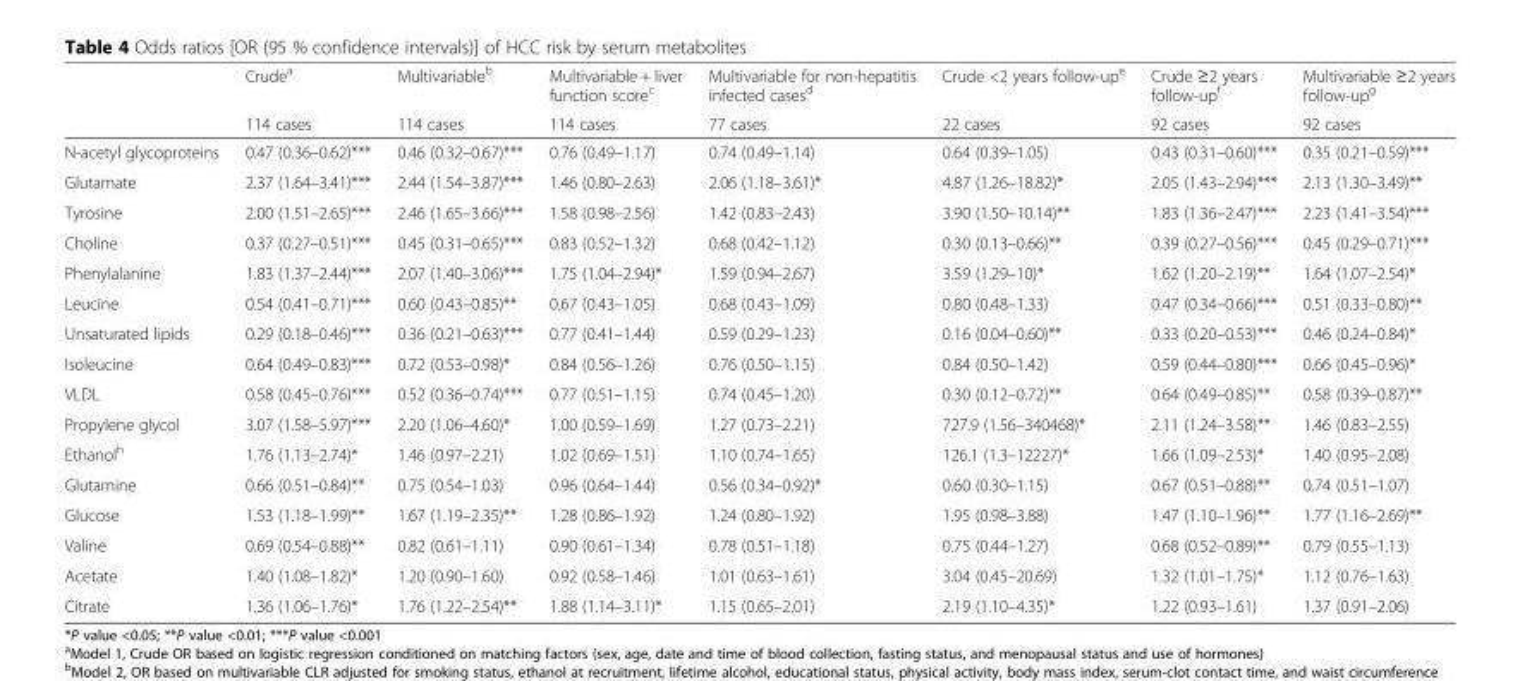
<table><thead><tr><td rowspan="2"></td><td rowspan="2">Crude<sup>a</sup> 114 cases</td><td rowspan="2">Multivariable<sup>b</sup> 114 cases</td><td rowspan="2">Multivariable + liver function score<sup>c</sup> 114 cases</td><td rowspan="2">Multivariable for non-hepatitis infected cases<sup>d</sup> 77 cases</td><td rowspan="2">Crude &lt;2 years follow-up<sup>e</sup> 22 cases</td><td rowspan="2">Crude ≥2 years follow-up<sup>f</sup> 92 cases</td><td rowspan="2">Multivariable ≥2 years follow-up<sup>g</sup> 92 cases</td></tr><tr></tr></thead><tbody><tr><td>N-acetyl glycoproteins</td><td>0.47 (0.36–0.62)***</td><td>0.46 (0.32–0.67)***</td><td>0.76 (0.49–1.17)</td><td>0.74 (0.49–1.14)</td><td>0.64 (0.39–1.05)</td><td>0.43 (0.31–0.60)***</td><td>0.35 (0.21–0.59)***</td></tr><tr><td>Glutamate</td><td>2.37 (1.64–3.41)***</td><td>2.44 (1.54–3.87)***</td><td>1.46 (0.80–2.63)</td><td>2.06 (1.18–3.61)*</td><td>4.87 (1.26–18.82)*</td><td>2.05 (1.43–2.94)***</td><td>2.13 (1.30–3.49)**</td></tr><tr><td>Tyrosine</td><td>2.00 (1.51–2.65)***</td><td>2.46 (1.65–3.66)***</td><td>1.58 (0.98–2.56)</td><td>1.42 (0.83–2.43)</td><td>3.90 (1.50–10.14)**</td><td>1.83 (1.36–2.47)***</td><td>2.23 (1.41–3.54)***</td></tr><tr><td>Choline</td><td>0.37 (0.27–0.51)***</td><td>0.45 (0.31–0.65)***</td><td>0.83 (0.52–1.32)</td><td>0.68 (0.42–1.12)</td><td>0.30 (0.13–0.66)**</td><td>0.39 (0.27–0.56)***</td><td>0.45 (0.29–0.71)***</td></tr><tr><td>Phenylalanine</td><td>1.83 (1.37–2.44)***</td><td>2.07 (1.40–3.06)***</td><td>1.75 (1.04–2.94)*</td><td>1.59 (0.94–2.67)</td><td>3.59 (1.29–10)*</td><td>1.62 (1.20–2.19)**</td><td>1.64 (1.07–2.54)*</td></tr><tr><td>Leucine</td><td>0.54 (0.41–0.71)***</td><td>0.60 (0.43–0.85)**</td><td>0.67 (0.43–1.05)</td><td>0.68 (0.43–1.09)</td><td>0.80 (0.48–1.33)</td><td>0.47 (0.34–0.66)***</td><td>0.51 (0.33–0.80)**</td></tr><tr><td>Unsaturated lipids</td><td>0.29 (0.18–0.46)***</td><td>0.36 (0.21–0.63)***</td><td>0.77 (0.41–1.44)</td><td>0.59 (0.29–1.23)</td><td>0.16 (0.04–0.60)**</td><td>0.33 (0.20–0.53)***</td><td>0.46 (0.24–0.84)*</td></tr><tr><td>Isoleucine</td><td>0.64 (0.49–0.83)***</td><td>0.72 (0.53–0.98)*</td><td>0.84 (0.56–1.26)</td><td>0.76 (0.50–1.15)</td><td>0.84 (0.50–1.42)</td><td>0.59 (0.44–0.80)***</td><td>0.66 (0.45–0.96)*</td></tr><tr><td>VLDL</td><td>0.58 (0.45–0.76)***</td><td>0.52 (0.36–0.74)***</td><td>0.77 (0.51–1.15)</td><td>0.74 (0.45–1.20)</td><td>0.30 (0.12–0.72)**</td><td>0.64 (0.49–0.85)**</td><td>0.58 (0.39–0.87)**</td></tr><tr><td>Propylene glycol</td><td>3.07 (1.58–5.97)***</td><td>2.20 (1.06–4.60)*</td><td>1.00 (0.59–1.69)</td><td>1.27 (0.73–2.21)</td><td>727.9 (1.56–340468)*</td><td>2.11 (1.24–3.58)**</td><td>1.46 (0.83–2.55)</td></tr><tr><td>Ethanol<sup>h</sup></td><td>1.76 (1.13–2.74)*</td><td>1.46 (0.97–2.21)</td><td>1.02 (0.69–1.51)</td><td>1.10 (0.74–1.65)</td><td>126.1 (1.3–12227)*</td><td>1.66 (1.09–2.53)*</td><td>1.40 (0.95–2.08)</td></tr><tr><td>Glutamine</td><td>0.66 (0.51–0.84)**</td><td>0.75 (0.54–1.03)</td><td>0.96 (0.64–1.44)</td><td>0.56 (0.34–0.92)*</td><td>0.60 (0.30–1.15)</td><td>0.67 (0.51–0.88)**</td><td>0.74 (0.51–1.07)</td></tr><tr><td>Glucose</td><td>1.53 (1.18–1.99)**</td><td>1.67 (1.19–2.35)**</td><td>1.28 (0.86–1.92)</td><td>1.24 (0.80–1.92)</td><td>1.95 (0.98–3.88)</td><td>1.47 (1.10–1.96)**</td><td>1.77 (1.16–2.69)**</td></tr><tr><td>Valine</td><td>0.69 (0.54–0.88)**</td><td>0.82 (0.61–1.11)</td><td>0.90 (0.61–1.34)</td><td>0.78 (0.51–1.18)</td><td>0.75 (0.44–1.27)</td><td>0.68 (0.52–0.89)**</td><td>0.79 (0.55–1.13)</td></tr><tr><td>Acetate</td><td>1.40 (1.08–1.82)*</td><td>1.20 (0.90–1.60)</td><td>0.92 (0.58–1.46)</td><td>1.01 (0.63–1.61)</td><td>3.04 (0.45–20.69)</td><td>1.32 (1.01–1.75)*</td><td>1.12 (0.76–1.63)</td></tr><tr><td>Citrate</td><td>1.36 (1.06–1.76)*</td><td>1.76 (1.22–2.54)**</td><td>1.88 (1.14–3.11)*</td><td>1.15 (0.65–2.01)</td><td>2.19 (1.10–4.35)*</td><td>1.22 (0.93–1.61)</td><td>1.37 (0.91–2.06)</td></tr></tbody></table>